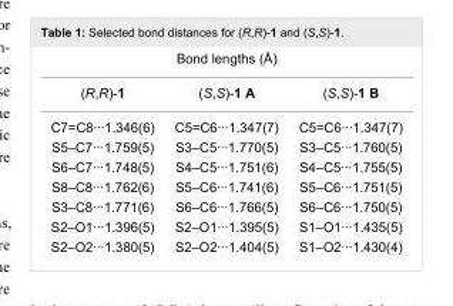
<table><tbody><tr><td colspan="3">Bond lengths (Å)</td></tr><tr><td>(R,R)-1</td><td>(S,S)-1 A</td><td>(S,S)-1 B</td></tr><tr><td>C7=C8···1.346(6)</td><td>C5=C6···1.347(7)</td><td>C5=C6···1.347(7)</td></tr><tr><td>S5–C7···1.759(5)</td><td>S3–C5···1.770(5)</td><td>S3–C5···1.760(5)</td></tr><tr><td>S6–C7···1.748(5)</td><td>S4–C5···1.751(6)</td><td>S4–C5···1.755(5)</td></tr><tr><td>S8–C8···1.762(6)</td><td>S5–C6···1.741(6)</td><td>S5–C6···1.751(5)</td></tr><tr><td>S3–C8···1.771(6)</td><td>S6–C6···1.766(5)</td><td>S6–C6···1.750(5)</td></tr><tr><td>S2–O1···1.396(5)</td><td>S2–O1···1.395(5)</td><td>S1–O1···1.435(5)</td></tr><tr><td>S2–O2···1.380(5)</td><td>S2–O2···1.404(5)</td><td>S1–O2···1.430(4)</td></tr></tbody></table>